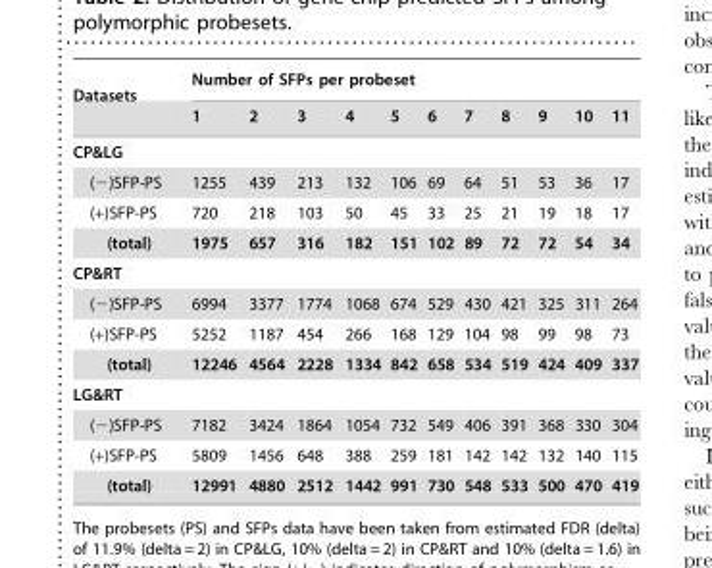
<table><thead><tr><td rowspan="2">Datasets</td><td colspan="11">Number of SFPs per probeset</td></tr><tr><td>1</td><td>2</td><td>3</td><td>4</td><td>5</td><td>6</td><td>7</td><td>8</td><td>9</td><td>10</td><td>11</td></tr></thead><tbody><tr><td colspan="12">CP&amp;LG</td></tr><tr><td>(−)SFP-PS</td><td>1255</td><td>439</td><td>213</td><td>132</td><td>106</td><td>69</td><td>64</td><td>51</td><td>53</td><td>36</td><td>17</td></tr><tr><td>(+)SFP-PS</td><td>720</td><td>218</td><td>103</td><td>50</td><td>45</td><td>33</td><td>25</td><td>21</td><td>19</td><td>18</td><td>17</td></tr><tr><td>(total)</td><td>1975</td><td>657</td><td>316</td><td>182</td><td>151</td><td>102</td><td>89</td><td>72</td><td>72</td><td>54</td><td>34</td></tr><tr><td colspan="12">CP&amp;RT</td></tr><tr><td>(−)SFP-PS</td><td>6994</td><td>3377</td><td>1774</td><td>1068</td><td>674</td><td>529</td><td>430</td><td>421</td><td>325</td><td>311</td><td>264</td></tr><tr><td>(+)SFP-PS</td><td>5252</td><td>1187</td><td>454</td><td>266</td><td>168</td><td>129</td><td>104</td><td>98</td><td>99</td><td>98</td><td>73</td></tr><tr><td>(total)</td><td>12246</td><td>4564</td><td>2228</td><td>1334</td><td>842</td><td>658</td><td>534</td><td>519</td><td>424</td><td>409</td><td>337</td></tr><tr><td colspan="12">LG&amp;RT</td></tr><tr><td>(−)SFP-PS</td><td>7182</td><td>3424</td><td>1864</td><td>1054</td><td>732</td><td>549</td><td>406</td><td>391</td><td>368</td><td>330</td><td>304</td></tr><tr><td>(+)SFP-PS</td><td>5809</td><td>1456</td><td>648</td><td>388</td><td>259</td><td>181</td><td>142</td><td>142</td><td>132</td><td>140</td><td>115</td></tr><tr><td>(total)</td><td>12991</td><td>4880</td><td>2512</td><td>1442</td><td>991</td><td>730</td><td>548</td><td>533</td><td>500</td><td>470</td><td>419</td></tr></tbody></table>